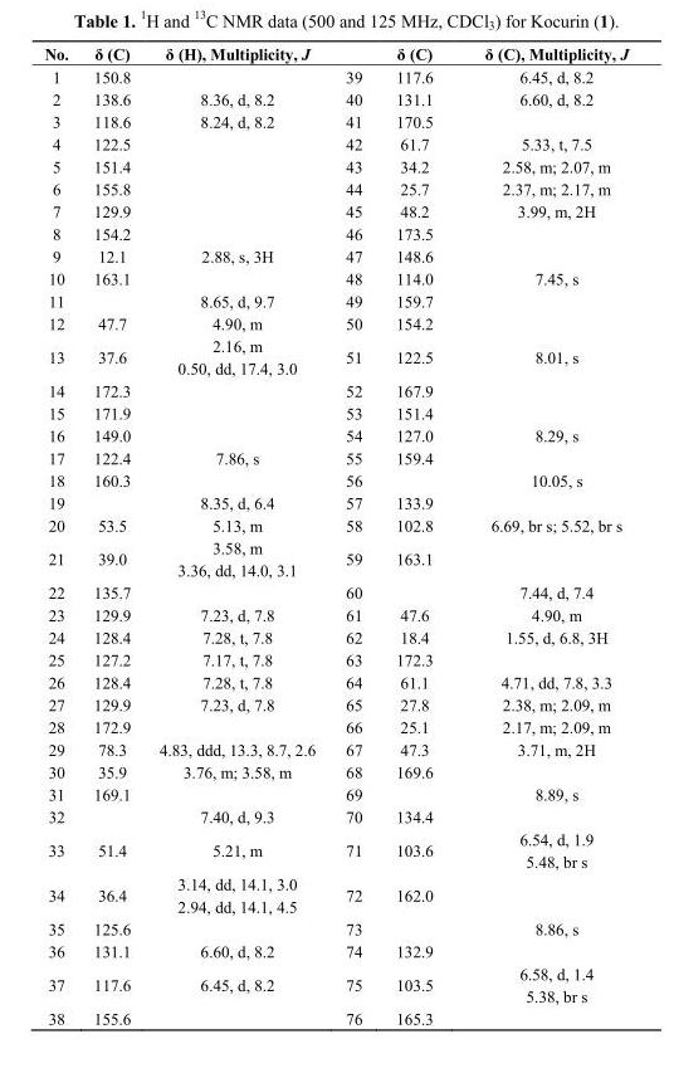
<table><thead><tr><td>No.</td><td>δ (C)</td><td>δ (H), Multiplicity, J</td><td></td><td>δ (C)</td><td>δ (C), Multiplicity, J</td></tr></thead><tbody><tr><td>1</td><td>150.8</td><td></td><td>39</td><td>117.6</td><td>6.45, d, 8.2</td></tr><tr><td>2</td><td>138.6</td><td>8.36, d, 8.2</td><td>40</td><td>131.1</td><td>6.60, d, 8.2</td></tr><tr><td>3</td><td>118.6</td><td>8.24, d, 8.2</td><td>41</td><td>170.5</td><td></td></tr><tr><td>4</td><td>122.5</td><td></td><td>42</td><td>61.7</td><td>5.33, t, 7.5</td></tr><tr><td>5</td><td>151.4</td><td></td><td>43</td><td>34.2</td><td>2.58, m; 2.07, m</td></tr><tr><td>6</td><td>155.8</td><td></td><td>44</td><td>25.7</td><td>2.37, m; 2.17, m</td></tr><tr><td>7</td><td>129.9</td><td></td><td>45</td><td>48.2</td><td>3.99, m, 2H</td></tr><tr><td>8</td><td>154.2</td><td></td><td>46</td><td>173.5</td><td></td></tr><tr><td>9</td><td>12.1</td><td>2.88, s, 3H</td><td>47</td><td>148.6</td><td></td></tr><tr><td>10</td><td>163.1</td><td></td><td>48</td><td>114.0</td><td>7.45, s</td></tr><tr><td>11</td><td></td><td>8.65, d, 9.7</td><td>49</td><td>159.7</td><td></td></tr><tr><td>12</td><td>47.7</td><td>4.90, m</td><td>50</td><td>154.2</td><td></td></tr><tr><td rowspan="2">13</td><td rowspan="2">37.6</td><td>2.16, m</td><td rowspan="2">51</td><td rowspan="2">122.5</td><td rowspan="2">8.01, s</td></tr><tr><td>0.50, dd, 17.4, 3.0</td></tr><tr><td>14</td><td>172.3</td><td></td><td>52</td><td>167.9</td><td></td></tr><tr><td>15</td><td>171.9</td><td></td><td>53</td><td>151.4</td><td></td></tr><tr><td>16</td><td>149.0</td><td></td><td>54</td><td>127.0</td><td>8.29, s</td></tr><tr><td>17</td><td>122.4</td><td>7.86, s</td><td>55</td><td>159.4</td><td></td></tr><tr><td>18</td><td>160.3</td><td></td><td>56</td><td></td><td>10.05, s</td></tr><tr><td>19</td><td></td><td>8.35, d, 6.4</td><td>57</td><td>133.9</td><td></td></tr><tr><td>20</td><td>53.5</td><td>5.13, m</td><td>58</td><td>102.8</td><td>6.69, br s; 5.52, br s</td></tr><tr><td rowspan="2">21</td><td rowspan="2">39.0</td><td>3.58, m</td><td rowspan="2">59</td><td rowspan="2">163.1</td><td rowspan="2"></td></tr><tr><td>3.36, dd, 14.0, 3.1</td></tr><tr><td>22</td><td>135.7</td><td></td><td>60</td><td></td><td>7.44, d, 7.4</td></tr><tr><td>23</td><td>129.9</td><td>7.23, d, 7.8</td><td>61</td><td>47.6</td><td>4.90, m</td></tr><tr><td>24</td><td>128.4</td><td>7.28, t, 7.8</td><td>62</td><td>18.4</td><td>1.55, d, 6.8, 3H</td></tr><tr><td>25</td><td>127.2</td><td>7.17, t, 7.8</td><td>63</td><td>172.3</td><td></td></tr><tr><td>26</td><td>128.4</td><td>7.28, t, 7.8</td><td>64</td><td>61.1</td><td>4.71, dd, 7.8, 3.3</td></tr><tr><td>27</td><td>129.9</td><td>7.23, d, 7.8</td><td>65</td><td>27.8</td><td>2.38, m; 2.09, m</td></tr><tr><td>28</td><td>172.9</td><td></td><td>66</td><td>25.1</td><td>2.17, m; 2.09, m</td></tr><tr><td>29</td><td>78.3</td><td>4.83, ddd, 13.3, 8.7, 2.6</td><td>67</td><td>47.3</td><td>3.71, m, 2H</td></tr><tr><td>30</td><td>35.9</td><td>3.76, m; 3.58, m</td><td>68</td><td>169.6</td><td></td></tr><tr><td>31</td><td>169.1</td><td></td><td>69</td><td></td><td>8.89, s</td></tr><tr><td>32</td><td></td><td>7.40, d, 9.3</td><td>70</td><td>134.4</td><td></td></tr><tr><td rowspan="2">33</td><td rowspan="2">51.4</td><td rowspan="2">5.21, m</td><td rowspan="2">71</td><td rowspan="2">103.6</td><td>6.54, d, 1.9</td></tr><tr><td>5.48, br s</td></tr><tr><td rowspan="2">34</td><td rowspan="2">36.4</td><td>3.14, dd, 14.1, 3.0</td><td rowspan="2">72</td><td rowspan="2">162.0</td><td rowspan="2"></td></tr><tr><td>2.94, dd, 14.1, 4.5</td></tr><tr><td>35</td><td>125.6</td><td></td><td>73</td><td></td><td>8.86, s</td></tr><tr><td>36</td><td>131.1</td><td>6.60, d, 8.2</td><td>74</td><td>132.9</td><td></td></tr><tr><td rowspan="2">37</td><td rowspan="2">117.6</td><td rowspan="2">6.45, d, 8.2</td><td rowspan="2">75</td><td rowspan="2">103.5</td><td>6.58, d, 1.4</td></tr><tr><td>5.38, br s</td></tr><tr><td>38</td><td>155.6</td><td></td><td>76</td><td>165.3</td><td></td></tr></tbody></table>